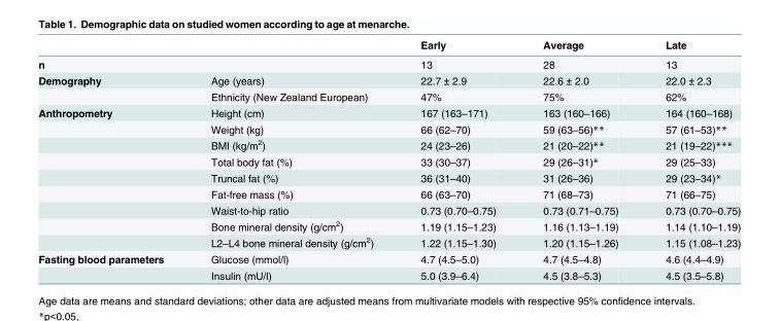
<table><thead><tr><td></td><td></td><td>Early</td><td>Average</td><td>Late</td></tr></thead><tbody><tr><td>n</td><td></td><td>13</td><td>28</td><td>13</td></tr><tr><td rowspan="2">Demography</td><td>Age (years)</td><td>22.7 ± 2.9</td><td>22.6 ± 2.0</td><td>22.0 ± 2.3</td></tr><tr><td>Ethnicity (New Zealand European)</td><td>47%</td><td>75%</td><td>62%</td></tr><tr><td rowspan="9">Anthropometry</td><td>Height (cm)</td><td>167 (163–171)</td><td>163 (160–166)</td><td>164 (160–168)</td></tr><tr><td>Weight (kg)</td><td>66 (62–70)</td><td>59 (63–56)**</td><td>57 (61–53)**</td></tr><tr><td>BMI (kg/m<sup>2</sup>)</td><td>24 (23–26)</td><td>21 (20–22)**</td><td>21 (19–22)***</td></tr><tr><td>Total body fat (%)</td><td>33 (30–37)</td><td>29 (26–31)*</td><td>29 (25–33)</td></tr><tr><td>Truncal fat (%)</td><td>36 (31–40)</td><td>31 (26–36)</td><td>29 (23–34)*</td></tr><tr><td>Fat-free mass (%)</td><td>66 (63–70)</td><td>71 (68–73)</td><td>71 (66–75)</td></tr><tr><td>Waist-to-hip ratio</td><td>0.73 (0.70–0.75)</td><td>0.73 (0.71–0.75)</td><td>0.73 (0.70–0.75)</td></tr><tr><td>Bone mineral density (g/cm<sup>2</sup>)</td><td>1.19 (1.15–1.23)</td><td>1.16 (1.13–1.19)</td><td>1.14 (1.10–1.19)</td></tr><tr><td>L2–L4 bone mineral density (g/cm<sup>2</sup>)</td><td>1.22 (1.15–1.30)</td><td>1.20 (1.15–1.26)</td><td>1.15 (1.08–1.23)</td></tr><tr><td rowspan="2">Fasting blood parameters</td><td>Glucose (mmol/l)</td><td>4.7 (4.5–5.0)</td><td>4.7 (4.5–4.8)</td><td>4.6 (4.4–4.9)</td></tr><tr><td>Insulin (mU/l)</td><td>5.0 (3.9–6.4)</td><td>4.5 (3.8–5.3)</td><td>4.5 (3.5–5.8)</td></tr></tbody></table>